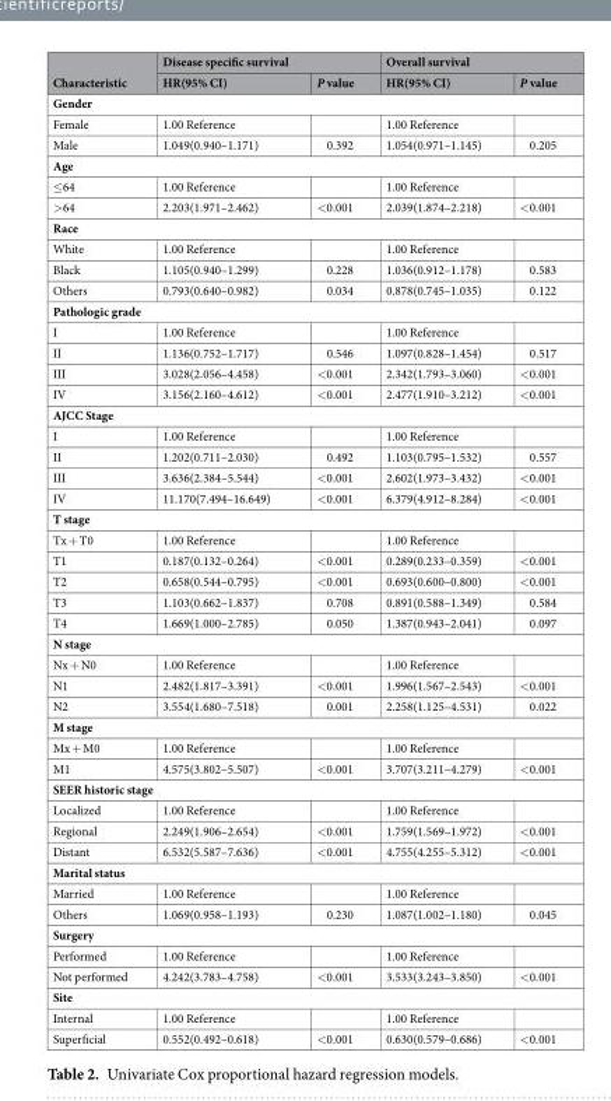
<table><thead><tr><td rowspan="2">Characteristic</td><td colspan="2">Disease specific survival</td><td colspan="2">Overall survival</td></tr><tr><td>HR(95% CI)</td><td>P value</td><td>HR(95% CI)</td><td>P value</td></tr></thead><tbody><tr><td colspan="5">Gender</td></tr><tr><td>Female</td><td>1.00 Reference</td><td></td><td>1.00 Reference</td><td></td></tr><tr><td>Male</td><td>1.049(0.940–1.171)</td><td>0.392</td><td>1.054(0.971–1.145)</td><td>0.205</td></tr><tr><td colspan="5">Age</td></tr><tr><td>≤64</td><td>1.00 Reference</td><td></td><td>1.00 Reference</td><td></td></tr><tr><td>&gt;64</td><td>2.203(1.971–2.462)</td><td>&lt;0.001</td><td>2.039(1.874–2.218)</td><td>&lt;0.001</td></tr><tr><td colspan="5">Race</td></tr><tr><td>White</td><td>1.00 Reference</td><td></td><td>1.00 Reference</td><td></td></tr><tr><td>Black</td><td>1.105(0.940–1.299)</td><td>0.228</td><td>1.036(0.912–1.178)</td><td>0.583</td></tr><tr><td>Others</td><td>0.793(0.640–0.982)</td><td>0.034</td><td>0.878(0.745–1.035)</td><td>0.122</td></tr><tr><td colspan="5">Pathologic grade</td></tr><tr><td>I</td><td>1.00 Reference</td><td></td><td>1.00 Reference</td><td></td></tr><tr><td>II</td><td>1.136(0.752–1.717)</td><td>0.546</td><td>1.097(0.828–1.454)</td><td>0.517</td></tr><tr><td>III</td><td>3.028(2.056–4.458)</td><td>&lt;0.001</td><td>2.342(1.793–3.060)</td><td>&lt;0.001</td></tr><tr><td>IV</td><td>3.156(2.160–4.612)</td><td>&lt;0.001</td><td>2.477(1.910–3.212)</td><td>&lt;0.001</td></tr><tr><td colspan="5">AJCC Stage</td></tr><tr><td>I</td><td>1.00 Reference</td><td></td><td>1.00 Reference</td><td></td></tr><tr><td>II</td><td>1.202(0.711–2.030)</td><td>0.492</td><td>1.103(0.795–1.532)</td><td>0.557</td></tr><tr><td>III</td><td>3.636(2.384–5.544)</td><td>&lt;0.001</td><td>2.602(1.973–3.432)</td><td>&lt;0.001</td></tr><tr><td>IV</td><td>11.170(7.494–16.649)</td><td>&lt;0.001</td><td>6.379(4.912–8.284)</td><td>&lt;0.001</td></tr><tr><td colspan="5">T stage</td></tr><tr><td>Tx + T0</td><td>1.00 Reference</td><td></td><td>1.00 Reference</td><td></td></tr><tr><td>T1</td><td>0.187(0.132–0.264)</td><td>&lt;0.001</td><td>0.289(0.233–0.359)</td><td>&lt;0.001</td></tr><tr><td>T2</td><td>0.658(0.544–0.795)</td><td>&lt;0.001</td><td>0.693(0.600–0.800)</td><td>&lt;0.001</td></tr><tr><td>T3</td><td>1.103(0.662–1.837)</td><td>0.708</td><td>0.891(0.588–1.349)</td><td>0.584</td></tr><tr><td>T4</td><td>1.669(1.000–2.785)</td><td>0.050</td><td>1.387(0.943–2.041)</td><td>0.097</td></tr><tr><td colspan="5">N stage</td></tr><tr><td>Nx + N0</td><td>1.00 Reference</td><td></td><td>1.00 Reference</td><td></td></tr><tr><td>N1</td><td>2.482(1.817–3.391)</td><td>&lt;0.001</td><td>1.996(1.567–2.543)</td><td>&lt;0.001</td></tr><tr><td>N2</td><td>3.554(1.680–7.518)</td><td>0.001</td><td>2.258(1.125–4.531)</td><td>0.022</td></tr><tr><td colspan="5">M stage</td></tr><tr><td>Mx + M0</td><td>1.00 Reference</td><td></td><td>1.00 Reference</td><td></td></tr><tr><td>M1</td><td>4.575(3.802–5.507)</td><td>&lt;0.001</td><td>3.707(3.211–4.279)</td><td>&lt;0.001</td></tr><tr><td colspan="5">SEER historic stage</td></tr><tr><td>Localized</td><td>1.00 Reference</td><td></td><td>1.00 Reference</td><td></td></tr><tr><td>Regional</td><td>2.249(1.906–2.654)</td><td>&lt;0.001</td><td>1.759(1.569–1.972)</td><td>&lt;0.001</td></tr><tr><td>Distant</td><td>6.532(5.587–7.636)</td><td>&lt;0.001</td><td>4.755(4.255–5.312)</td><td>&lt;0.001</td></tr><tr><td colspan="5">Marital status</td></tr><tr><td>Married</td><td>1.00 Reference</td><td></td><td>1.00 Reference</td><td></td></tr><tr><td>Others</td><td>1.069(0.958–1.193)</td><td>0.230</td><td>1.087(1.002–1.180)</td><td>0.045</td></tr><tr><td colspan="5">Surgery</td></tr><tr><td>Performed</td><td>1.00 Reference</td><td></td><td>1.00 Reference</td><td></td></tr><tr><td>Not performed</td><td>4.242(3.783–4.758)</td><td>&lt;0.001</td><td>3.533(3.243–3.850)</td><td>&lt;0.001</td></tr><tr><td colspan="5">Site</td></tr><tr><td>Internal</td><td>1.00 Reference</td><td></td><td>1.00 Reference</td><td></td></tr><tr><td>Superficial</td><td>0.552(0.492–0.618)</td><td>&lt;0.001</td><td>0.630(0.579–0.686)</td><td>&lt;0.001</td></tr></tbody></table>